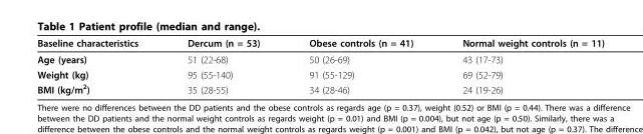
<table><thead><tr><td>Baseline characteristics</td><td>Dercum (n = 53)</td><td>Obese controls (n = 41)</td><td>Normal weight controls (n = 11)</td></tr></thead><tbody><tr><td>Age (years)</td><td>51 (22-68)</td><td>50 (26-69)</td><td>43 (17-73)</td></tr><tr><td>Weight (kg)</td><td>95 (55-140)</td><td>91 (55-129)</td><td>69 (52-79)</td></tr><tr><td>BMI (kg/m<sup>2</sup>)</td><td>35 (28-55)</td><td>34 (28-46)</td><td>24 (19-26)</td></tr></tbody></table>